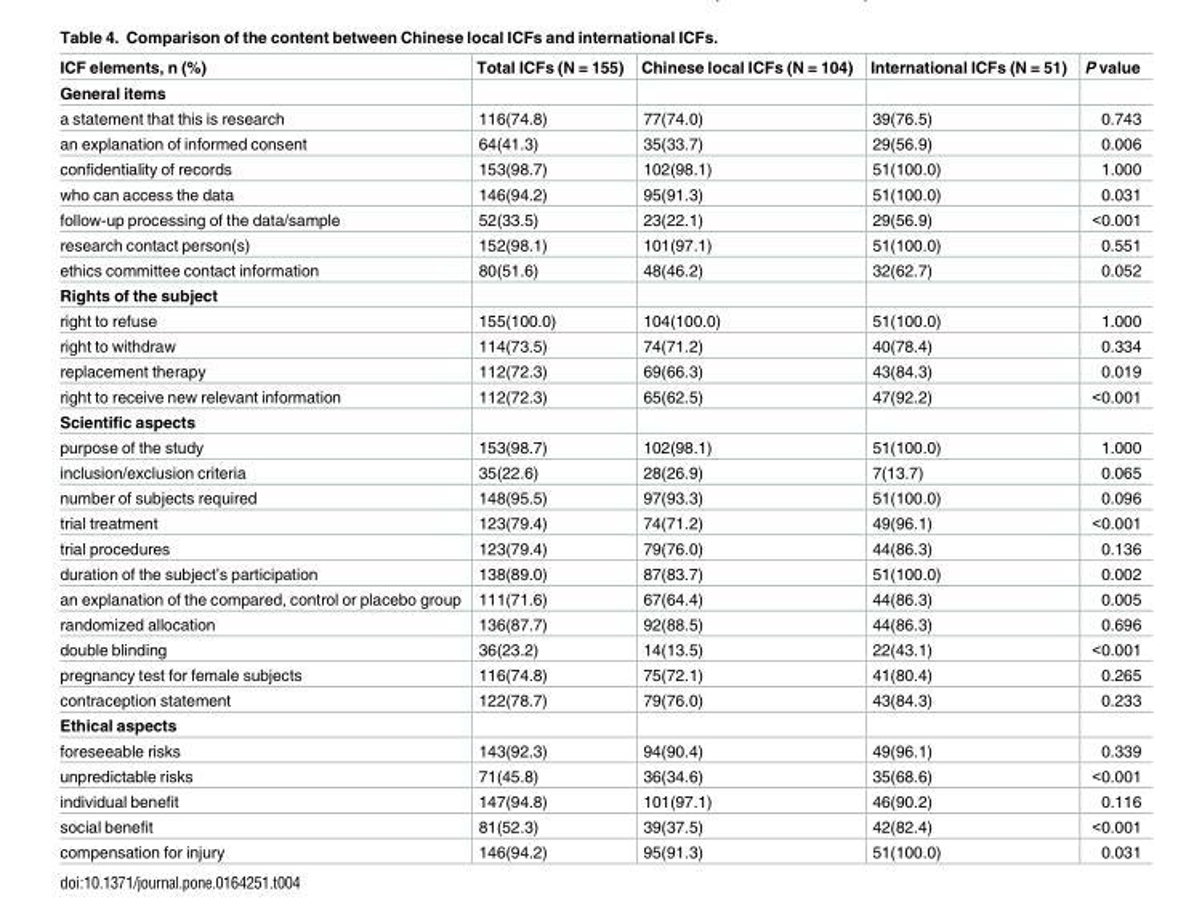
<table><thead><tr><td>ICF elements, n (%)</td><td>Total ICFs (N = 155)</td><td>Chinese local ICFs (N = 104)</td><td>International ICFs (N = 51)</td><td>P value</td></tr></thead><tbody><tr><td colspan="5">General items</td></tr><tr><td>a statement that this is research</td><td>116(74.8)</td><td>77(74.0)</td><td>39(76.5)</td><td>0.743</td></tr><tr><td>an explanation of informed consent</td><td>64(41.3)</td><td>35(33.7)</td><td>29(56.9)</td><td>0.006</td></tr><tr><td>confidentiality of records</td><td>153(98.7)</td><td>102(98.1)</td><td>51(100.0)</td><td>1.000</td></tr><tr><td>who can access the data</td><td>146(94.2)</td><td>95(91.3)</td><td>51(100.0)</td><td>0.031</td></tr><tr><td>follow-up processing of the data/sample</td><td>52(33.5)</td><td>23(22.1)</td><td>29(56.9)</td><td>&lt;0.001</td></tr><tr><td>research contact person(s)</td><td>152(98.1)</td><td>101(97.1)</td><td>51(100.0)</td><td>0.551</td></tr><tr><td>ethics committee contact information</td><td>80(51.6)</td><td>48(46.2)</td><td>32(62.7)</td><td>0.052</td></tr><tr><td colspan="5">Rights of the subject</td></tr><tr><td>right to refuse</td><td>155(100.0)</td><td>104(100.0)</td><td>51(100.0)</td><td>1.000</td></tr><tr><td>right to withdraw</td><td>114(73.5)</td><td>74(71.2)</td><td>40(78.4)</td><td>0.334</td></tr><tr><td>replacement therapy</td><td>112(72.3)</td><td>69(66.3)</td><td>43(84.3)</td><td>0.019</td></tr><tr><td>right to receive new relevant information</td><td>112(72.3)</td><td>65(62.5)</td><td>47(92.2)</td><td>&lt;0.001</td></tr><tr><td colspan="5">Scientific aspects</td></tr><tr><td>purpose of the study</td><td>153(98.7)</td><td>102(98.1)</td><td>51(100.0)</td><td>1.000</td></tr><tr><td>inclusion/exclusion criteria</td><td>35(22.6)</td><td>28(26.9)</td><td>7(13.7)</td><td>0.065</td></tr><tr><td>number of subjects required</td><td>148(95.5)</td><td>97(93.3)</td><td>51(100.0)</td><td>0.096</td></tr><tr><td>trial treatment</td><td>123(79.4)</td><td>74(71.2)</td><td>49(96.1)</td><td>&lt;0.001</td></tr><tr><td>trial procedures</td><td>123(79.4)</td><td>79(76.0)</td><td>44(86.3)</td><td>0.136</td></tr><tr><td>duration of the subject’s participation</td><td>138(89.0)</td><td>87(83.7)</td><td>51(100.0)</td><td>0.002</td></tr><tr><td>an explanation of the compared, control or placebo group</td><td>111(71.6)</td><td>67(64.4)</td><td>44(86.3)</td><td>0.005</td></tr><tr><td>randomized allocation</td><td>136(87.7)</td><td>92(88.5)</td><td>44(86.3)</td><td>0.696</td></tr><tr><td>double blinding</td><td>36(23.2)</td><td>14(13.5)</td><td>22(43.1)</td><td>&lt;0.001</td></tr><tr><td>pregnancy test for female subjects</td><td>116(74.8)</td><td>75(72.1)</td><td>41(80.4)</td><td>0.265</td></tr><tr><td>contraception statement</td><td>122(78.7)</td><td>79(76.0)</td><td>43(84.3)</td><td>0.233</td></tr><tr><td colspan="5">Ethical aspects</td></tr><tr><td>foreseeable risks</td><td>143(92.3)</td><td>94(90.4)</td><td>49(96.1)</td><td>0.339</td></tr><tr><td>unpredictable risks</td><td>71(45.8)</td><td>36(34.6)</td><td>35(68.6)</td><td>&lt;0.001</td></tr><tr><td>individual benefit</td><td>147(94.8)</td><td>101(97.1)</td><td>46(90.2)</td><td>0.116</td></tr><tr><td>social benefit</td><td>81(52.3)</td><td>39(37.5)</td><td>42(82.4)</td><td>&lt;0.001</td></tr><tr><td>compensation for injury</td><td>146(94.2)</td><td>95(91.3)</td><td>51(100.0)</td><td>0.031</td></tr></tbody></table>